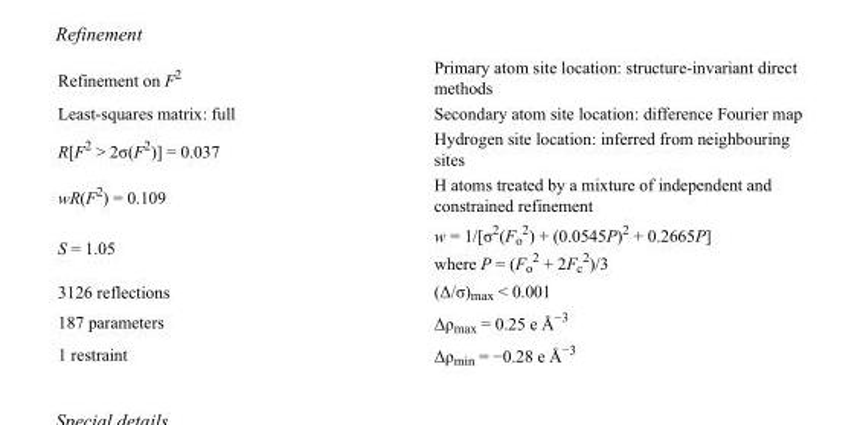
<table><tbody><tr><td>Refinement on F<sup>2</sup></td><td>Primary atom site location: structure-invariant direct methods</td></tr><tr><td>Least-squares matrix: full</td><td>Secondary atom site location: difference Fourier map</td></tr><tr><td>R[F<sup>2</sup> &gt; 2σ(F<sup>2</sup>)] = 0.037</td><td>Hydrogen site location: inferred from neighbouring sites</td></tr><tr><td>wR(F<sup>2</sup>) = 0.109</td><td>H atoms treated by a mixture of independent and constrained refinement</td></tr><tr><td>S = 1.05</td><td>w = 1/[σ<sup>2</sup>(F<sub>o</sub> <sup>2</sup>) + (0.0545P)<sup>2</sup> + 0.2665P] where P = (F<sub>o</sub> <sup>2</sup> + 2F<sub>c</sub> <sup>2</sup>)/3</td></tr><tr><td>3126 reflections</td><td>(Δ/σ)<sub>max</sub> &lt; 0.001</td></tr><tr><td>187 parameters</td><td>Δρ<sub>max</sub> = 0.25 e Å<sup>−3</sup></td></tr><tr><td>1 restraint</td><td>Δρ<sub>min</sub> = −0.28 e Å<sup>−3</sup></td></tr></tbody></table>